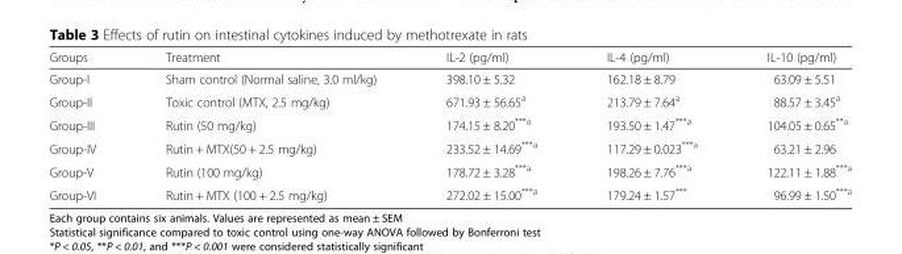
<table><thead><tr><td>Groups</td><td>Treatment</td><td>IL-2 (pg/ml)</td><td>IL-4 (pg/ml)</td><td>IL-10 (pg/ml)</td></tr></thead><tbody><tr><td>Group-I</td><td>Sham control (Normal saline, 3.0 ml/kg)</td><td>398.10 ± 5.32</td><td>162.18 ± 8.79</td><td>63.09 ± 5.51</td></tr><tr><td>Group-II</td><td>Toxic control (MTX, 2.5 mg/kg)</td><td>671.93 ± 56.65<sup>a</sup></td><td>213.79 ± 7.64<sup>a</sup></td><td>88.57 ± 3.45<sup>a</sup></td></tr><tr><td>Group-III</td><td>Rutin (50 mg/kg)</td><td>174.15 ± 8.20<sup>***a</sup></td><td>193.50 ± 1.47<sup>***a</sup></td><td>104.05 ± 0.65<sup>**a</sup></td></tr><tr><td>Group-IV</td><td>Rutin + MTX(50 + 2.5 mg/kg)</td><td>233.52 ± 14.69<sup>***a</sup></td><td>117.29 ± 0.023<sup>***a</sup></td><td>63.21 ± 2.96</td></tr><tr><td>Group-V</td><td>Rutin (100 mg/kg)</td><td>178.72 ± 3.28<sup>***a</sup></td><td>198.26 ± 7.76<sup>***a</sup></td><td>122.11 ± 1.88<sup>***a</sup></td></tr><tr><td>Group-VI</td><td>Rutin + MTX (100 + 2.5 mg/kg)</td><td>272.02 ± 15.00<sup>***a</sup></td><td>179.24 ± 1.57***</td><td>96.99 ± 1.50<sup>***a</sup></td></tr></tbody></table>